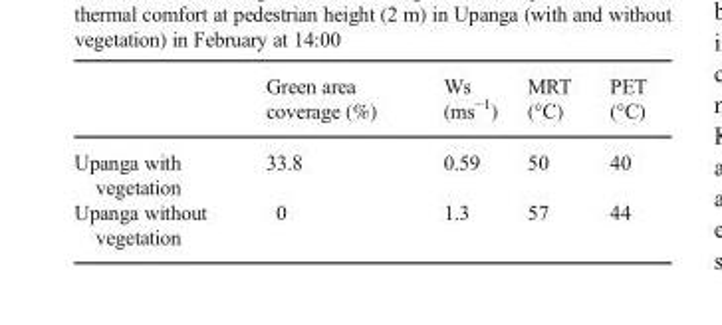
<table><thead><tr><td></td><td>Green area coverage (%)</td><td>Ws (ms<sup>−1</sup>)</td><td>MRT (°C)</td><td>PET (°C)</td></tr></thead><tbody><tr><td>Upanga with vegetation</td><td>33.8</td><td>0.59</td><td>50</td><td>40</td></tr><tr><td>Upanga without vegetation</td><td>0</td><td>1.3</td><td>57</td><td>44</td></tr></tbody></table>